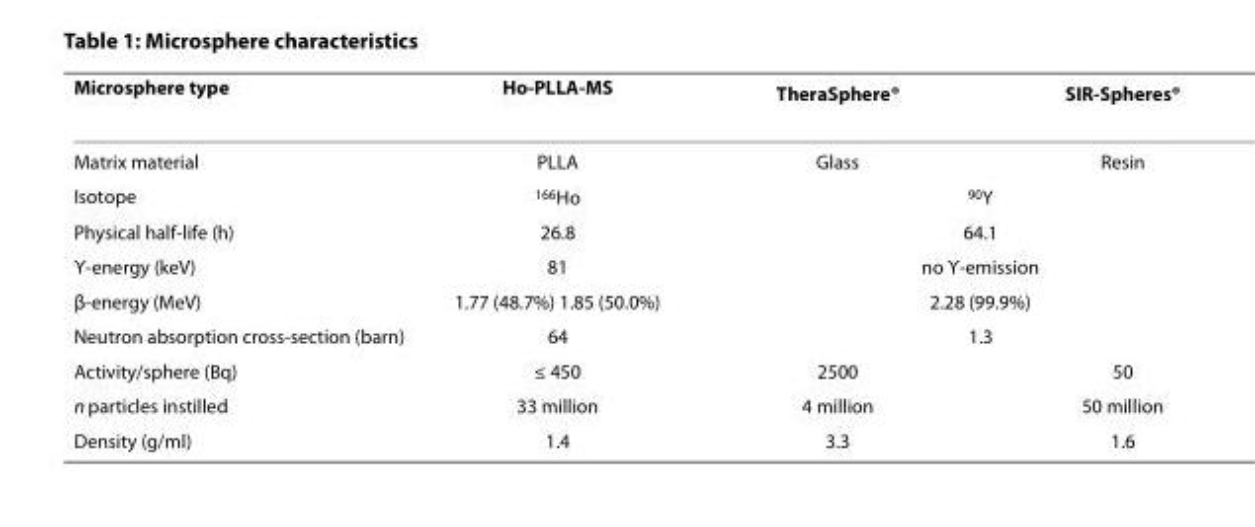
<table><thead><tr><td>Microsphere type</td><td>Ho-PLLA-MS</td><td>TheraSphere<sup>®</sup></td><td>SIR-Spheres<sup>®</sup></td></tr></thead><tbody><tr><td>Matrix material</td><td>PLLA</td><td>Glass</td><td>Resin</td></tr><tr><td>Isotope</td><td><sup>166</sup>Ho</td><td colspan="2"><sup>90</sup>Y</td></tr><tr><td>Physical half-life (h)</td><td>26.8</td><td colspan="2">64.1</td></tr><tr><td>Υ-energy (keV)</td><td>81</td><td colspan="2">no Υ-emission</td></tr><tr><td>β-energy (MeV)</td><td>1.77 (48.7%) 1.85 (50.0%)</td><td colspan="2">2.28 (99.9%)</td></tr><tr><td>Neutron absorption cross-section (barn)</td><td>64</td><td colspan="2">1.3</td></tr><tr><td>Activity/sphere (Bq)</td><td>≤ 450</td><td>2500</td><td>50</td></tr><tr><td>n particles instilled</td><td>33 million</td><td>4 million</td><td>50 million</td></tr><tr><td>Density (g/ml)</td><td>1.4</td><td>3.3</td><td>1.6</td></tr></tbody></table>